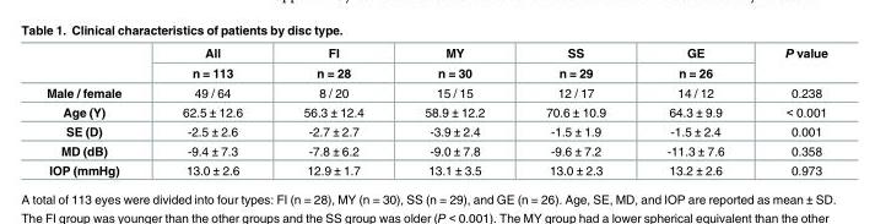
<table><thead><tr><td rowspan="2"></td><td rowspan="2">All n = 113</td><td rowspan="2">FI n = 28</td><td rowspan="2">MY n = 30</td><td rowspan="2">SS n = 29</td><td rowspan="2">GE n = 26</td><td rowspan="2">P value</td></tr><tr></tr></thead><tbody><tr><td>Male / female</td><td>49 / 64</td><td>8 / 20</td><td>15 / 15</td><td>12 / 17</td><td>14 / 12</td><td>0.238</td></tr><tr><td>Age (Y)</td><td>62.5 ± 12.6</td><td>56.3 ± 12.4</td><td>58.9 ± 12.2</td><td>70.6 ± 10.9</td><td>64.3 ± 9.9</td><td>&lt; 0.001</td></tr><tr><td>SE (D)</td><td>-2.5 ± 2.6</td><td>-2.7 ± 2.7</td><td>-3.9 ± 2.4</td><td>-1.5 ± 1.9</td><td>-1.5 ± 2.4</td><td>0.001</td></tr><tr><td>MD (dB)</td><td>-9.4 ± 7.3</td><td>-7.8 ± 6.2</td><td>-9.0 ± 7.8</td><td>-9.6 ± 7.2</td><td>-11.3 ± 7.6</td><td>0.358</td></tr><tr><td>IOP (mmHg)</td><td>13.0 ± 2.6</td><td>12.9 ± 1.7</td><td>13.1 ± 3.5</td><td>13.0 ± 2.3</td><td>13.2 ± 2.6</td><td>0.973</td></tr></tbody></table>